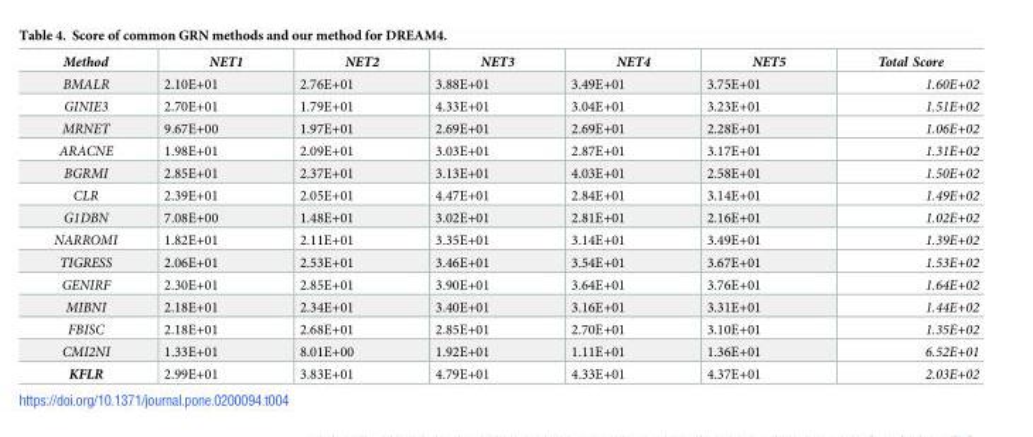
<table><thead><tr><td>Method</td><td>NET1</td><td>NET2</td><td>NET3</td><td>NET4</td><td>NET5</td><td>Total Score</td></tr></thead><tbody><tr><td>BMALR</td><td>2.10E+01</td><td>2.76E+01</td><td>3.88E+01</td><td>3.49E+01</td><td>3.75E+01</td><td>1.60E+02</td></tr><tr><td>GINIE3</td><td>2.70E+01</td><td>1.79E+01</td><td>4.33E+01</td><td>3.04E+01</td><td>3.23E+01</td><td>1.51E+02</td></tr><tr><td>MRNET</td><td>9.67E+00</td><td>1.97E+01</td><td>2.69E+01</td><td>2.69E+01</td><td>2.28E+01</td><td>1.06E+02</td></tr><tr><td>ARACNE</td><td>1.98E+01</td><td>2.09E+01</td><td>3.03E+01</td><td>2.87E+01</td><td>3.17E+01</td><td>1.31E+02</td></tr><tr><td>BGRMI</td><td>2.85E+01</td><td>2.37E+01</td><td>3.13E+01</td><td>4.03E+01</td><td>2.58E+01</td><td>1.50E+02</td></tr><tr><td>CLR</td><td>2.39E+01</td><td>2.05E+01</td><td>4.47E+01</td><td>2.84E+01</td><td>3.14E+01</td><td>1.49E+02</td></tr><tr><td>G1DBN</td><td>7.08E+00</td><td>1.48E+01</td><td>3.02E+01</td><td>2.81E+01</td><td>2.16E+01</td><td>1.02E+02</td></tr><tr><td>NARROMI</td><td>1.82E+01</td><td>2.11E+01</td><td>3.35E+01</td><td>3.14E+01</td><td>3.49E+01</td><td>1.39E+02</td></tr><tr><td>TIGRESS</td><td>2.06E+01</td><td>2.53E+01</td><td>3.46E+01</td><td>3.54E+01</td><td>3.67E+01</td><td>1.53E+02</td></tr><tr><td>GENIRF</td><td>2.30E+01</td><td>2.85E+01</td><td>3.90E+01</td><td>3.64E+01</td><td>3.76E+01</td><td>1.64E+02</td></tr><tr><td>MIBNI</td><td>2.18E+01</td><td>2.34E+01</td><td>3.40E+01</td><td>3.16E+01</td><td>3.31E+01</td><td>1.44E+02</td></tr><tr><td>FBISC</td><td>2.18E+01</td><td>2.68E+01</td><td>2.85E+01</td><td>2.70E+01</td><td>3.10E+01</td><td>1.35E+02</td></tr><tr><td>CMI2NI</td><td>1.33E+01</td><td>8.01E+00</td><td>1.92E+01</td><td>1.11E+01</td><td>1.36E+01</td><td>6.52E+01</td></tr><tr><td>KFLR</td><td>2.99E+01</td><td>3.83E+01</td><td>4.79E+01</td><td>4.33E+01</td><td>4.37E+01</td><td>2.03E+02</td></tr></tbody></table>